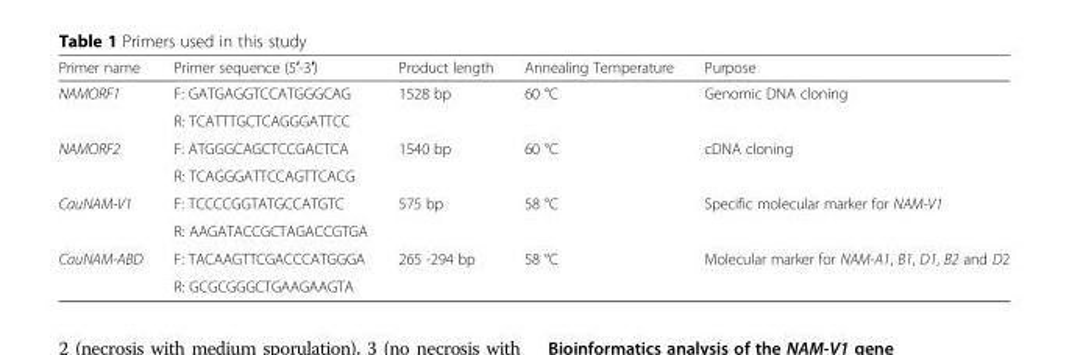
<table><thead><tr><td>Primer name</td><td>Primer sequence (5′-3′)</td><td>Product length</td><td>Annealing Temperature</td><td>Purpose</td></tr></thead><tbody><tr><td rowspan="2">NAMORF1</td><td>F: GATGAGGTCCATGGGCAG</td><td rowspan="2">1528 bp</td><td rowspan="2">60 °C</td><td rowspan="2">Genomic DNA cloning</td></tr><tr><td>R: TCATTTGCTCAGGGATTCC</td></tr><tr><td rowspan="2">NAMORF2</td><td>F: ATGGGCAGCTCCGACTCA</td><td rowspan="2">1540 bp</td><td rowspan="2">60 °C</td><td rowspan="2">cDNA cloning</td></tr><tr><td>R: TCAGGGATTCCAGTTCACG</td></tr><tr><td rowspan="2">CauNAM-V1</td><td>F: TCCCCGGTATGCCATGTC</td><td rowspan="2">575 bp</td><td rowspan="2">58 °C</td><td rowspan="2">Specific molecular marker for NAM-V1</td></tr><tr><td>R: AAGATACCGCTAGACCGTGA</td></tr><tr><td rowspan="2">CauNAM-ABD</td><td>F: TACAAGTTCGACCCATGGGA</td><td rowspan="2">265 -294 bp</td><td rowspan="2">58 °C</td><td rowspan="2">Molecular marker for NAM-A1, B1, D1, B2 and D2</td></tr><tr><td>R: GCGCGGGCTGAAGAAGTA</td></tr></tbody></table>